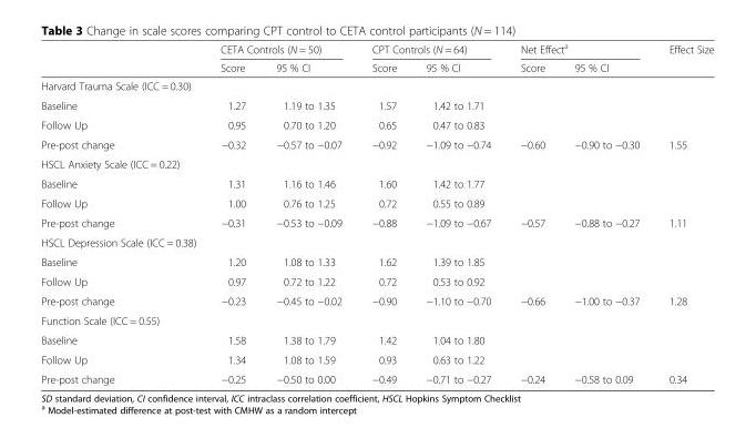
<table><thead><tr><td rowspan="2"></td><td colspan="2">CETA Controls (N = 50)</td><td colspan="2">CPT Controls (N = 64)</td><td colspan="2">Net Effect<sup>a</sup></td><td rowspan="2">Effect Size</td></tr><tr><td>Score</td><td>95 % CI</td><td>Score</td><td>95 % CI</td><td>Score</td><td>95 % CI</td></tr></thead><tbody><tr><td colspan="8">Harvard Trauma Scale (ICC = 0.30)</td></tr><tr><td>Baseline</td><td>1.27</td><td>1.19 to 1.35</td><td>1.57</td><td>1.42 to 1.71</td><td></td><td></td><td></td></tr><tr><td>Follow Up</td><td>0.95</td><td>0.70 to 1.20</td><td>0.65</td><td>0.47 to 0.83</td><td></td><td></td><td></td></tr><tr><td>Pre-post change</td><td>−0.32</td><td>−0.57 to −0.07</td><td>−0.92</td><td>−1.09 to −0.74</td><td>−0.60</td><td>−0.90 to −0.30</td><td>1.55</td></tr><tr><td colspan="8">HSCL Anxiety Scale (ICC = 0.22)</td></tr><tr><td>Baseline</td><td>1.31</td><td>1.16 to 1.46</td><td>1.60</td><td>1.42 to 1.77</td><td></td><td></td><td></td></tr><tr><td>Follow Up</td><td>1.00</td><td>0.76 to 1.25</td><td>0.72</td><td>0.55 to 0.89</td><td></td><td></td><td></td></tr><tr><td>Pre-post change</td><td>−0.31</td><td>−0.53 to −0.09</td><td>−0.88</td><td>−1.09 to −0.67</td><td>−0.57</td><td>−0.88 to −0.27</td><td>1.11</td></tr><tr><td colspan="8">HSCL Depression Scale (ICC = 0.38)</td></tr><tr><td>Baseline</td><td>1.20</td><td>1.08 to 1.33</td><td>1.62</td><td>1.39 to 1.85</td><td></td><td></td><td></td></tr><tr><td>Follow Up</td><td>0.97</td><td>0.72 to 1.22</td><td>0.72</td><td>0.53 to 0.92</td><td></td><td></td><td></td></tr><tr><td>Pre-post change</td><td>−0.23</td><td>−0.45 to −0.02</td><td>−0.90</td><td>−1.10 to −0.70</td><td>−0.66</td><td>−1.00 to −0.37</td><td>1.28</td></tr><tr><td colspan="8">Function Scale (ICC = 0.55)</td></tr><tr><td>Baseline</td><td>1.58</td><td>1.38 to 1.79</td><td>1.42</td><td>1.04 to 1.80</td><td></td><td></td><td></td></tr><tr><td>Follow Up</td><td>1.34</td><td>1.08 to 1.59</td><td>0.93</td><td>0.63 to 1.22</td><td></td><td></td><td></td></tr><tr><td>Pre-post change</td><td>−0.25</td><td>−0.50 to 0.00</td><td>−0.49</td><td>−0.71 to −0.27</td><td>−0.24</td><td>−0.58 to 0.09</td><td>0.34</td></tr></tbody></table>